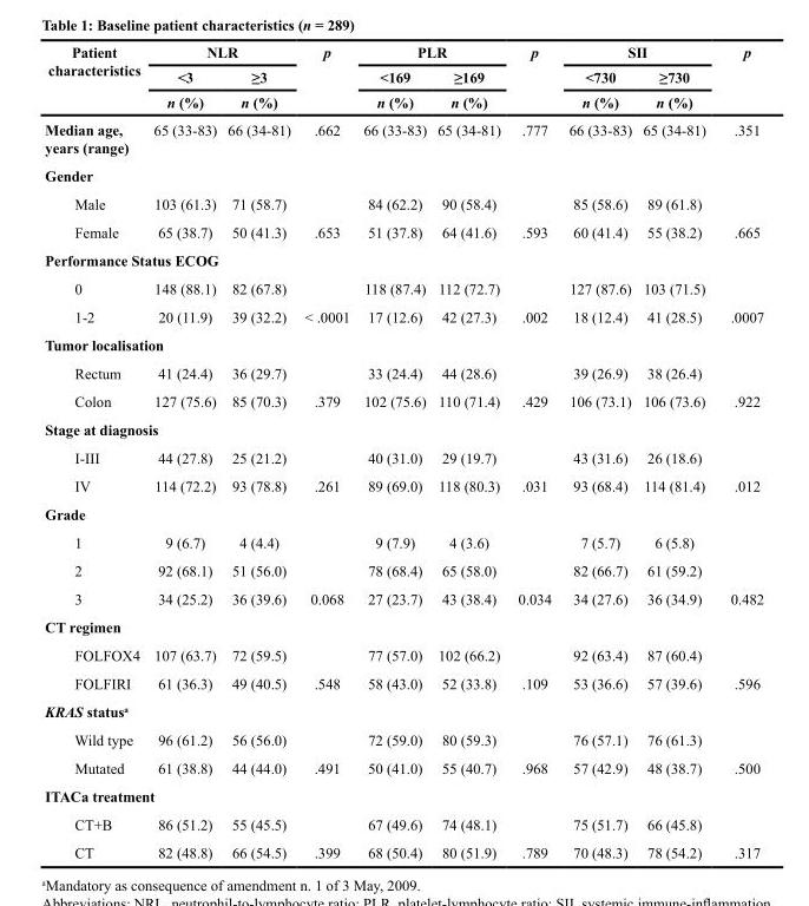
<table><thead><tr><td rowspan="3">Patient characteristics</td><td colspan="2">NLR</td><td rowspan="3">p</td><td colspan="2">PLR</td><td rowspan="3">p</td><td colspan="2">SII</td><td rowspan="3">p</td></tr><tr><td rowspan="2">&lt;3 n (%)</td><td rowspan="2">≥3 n (%)</td><td rowspan="2">&lt;169 n (%)</td><td rowspan="2">≥169 n (%)</td><td rowspan="2">&lt;730 n (%)</td><td rowspan="2">≥730 n (%)</td></tr><tr></tr></thead><tbody><tr><td>Median age, years (range)</td><td>65 (33-83)</td><td>66 (34-81)</td><td>.662</td><td>66 (33-83)</td><td>65 (34-81)</td><td>.777</td><td>66 (33-83)</td><td>65 (34-81)</td><td>.351</td></tr><tr><td colspan="10">Gender</td></tr><tr><td>Male</td><td>103 (61.3)</td><td>71 (58.7)</td><td></td><td>84 (62.2)</td><td>90 (58.4)</td><td></td><td>85 (58.6)</td><td>89 (61.8)</td><td></td></tr><tr><td>Female</td><td>65 (38.7)</td><td>50 (41.3)</td><td>.653</td><td>51 (37.8)</td><td>64 (41.6)</td><td>.593</td><td>60 (41.4)</td><td>55 (38.2)</td><td>.665</td></tr><tr><td colspan="10">Performance Status ECOG</td></tr><tr><td>0</td><td>148 (88.1)</td><td>82 (67.8)</td><td></td><td>118 (87.4)</td><td>112 (72.7)</td><td></td><td>127 (87.6)</td><td>103 (71.5)</td><td></td></tr><tr><td>1-2</td><td>20 (11.9)</td><td>39 (32.2)</td><td>&lt; .0001</td><td>17 (12.6)</td><td>42 (27.3)</td><td>.002</td><td>18 (12.4)</td><td>41 (28.5)</td><td>.0007</td></tr><tr><td colspan="10">Tumor localisation</td></tr><tr><td>Rectum</td><td>41 (24.4)</td><td>36 (29.7)</td><td></td><td>33 (24.4)</td><td>44 (28.6)</td><td></td><td>39 (26.9)</td><td>38 (26.4)</td><td></td></tr><tr><td>Colon</td><td>127 (75.6)</td><td>85 (70.3)</td><td>.379</td><td>102 (75.6)</td><td>110 (71.4)</td><td>.429</td><td>106 (73.1)</td><td>106 (73.6)</td><td>.922</td></tr><tr><td colspan="10">Stage at diagnosis</td></tr><tr><td>I-III</td><td>44 (27.8)</td><td>25 (21.2)</td><td></td><td>40 (31.0)</td><td>29 (19.7)</td><td></td><td>43 (31.6)</td><td>26 (18.6)</td><td></td></tr><tr><td>IV</td><td>114 (72.2)</td><td>93 (78.8)</td><td>.261</td><td>89 (69.0)</td><td>118 (80.3)</td><td>.031</td><td>93 (68.4)</td><td>114 (81.4)</td><td>.012</td></tr><tr><td colspan="10">Grade</td></tr><tr><td>1</td><td>9 (6.7)</td><td>4 (4.4)</td><td></td><td>9 (7.9)</td><td>4 (3.6)</td><td></td><td>7 (5.7)</td><td>6 (5.8)</td><td></td></tr><tr><td>2</td><td>92 (68.1)</td><td>51 (56.0)</td><td></td><td>78 (68.4)</td><td>65 (58.0)</td><td></td><td>82 (66.7)</td><td>61 (59.2)</td><td></td></tr><tr><td>3</td><td>34 (25.2)</td><td>36 (39.6)</td><td>0.068</td><td>27 (23.7)</td><td>43 (38.4)</td><td>0.034</td><td>34 (27.6)</td><td>36 (34.9)</td><td>0.482</td></tr><tr><td colspan="10">CT regimen</td></tr><tr><td>FOLFOX4</td><td>107 (63.7)</td><td>72 (59.5)</td><td></td><td>77 (57.0)</td><td>102 (66.2)</td><td></td><td>92 (63.4)</td><td>87 (60.4)</td><td></td></tr><tr><td>FOLFIRI</td><td>61 (36.3)</td><td>49 (40.5)</td><td>.548</td><td>58 (43.0)</td><td>52 (33.8)</td><td>.109</td><td>53 (36.6)</td><td>57 (39.6)</td><td>.596</td></tr><tr><td colspan="10">KRAS status<sup>a</sup></td></tr><tr><td>Wild type</td><td>96 (61.2)</td><td>56 (56.0)</td><td></td><td>72 (59.0)</td><td>80 (59.3)</td><td></td><td>76 (57.1)</td><td>76 (61.3)</td><td></td></tr><tr><td>Mutated</td><td>61 (38.8)</td><td>44 (44.0)</td><td>.491</td><td>50 (41.0)</td><td>55 (40.7)</td><td>.968</td><td>57 (42.9)</td><td>48 (38.7)</td><td>.500</td></tr><tr><td colspan="10">ITACa treatment</td></tr><tr><td>CT+B</td><td>86 (51.2)</td><td>55 (45.5)</td><td></td><td>67 (49.6)</td><td>74 (48.1)</td><td></td><td>75 (51.7)</td><td>66 (45.8)</td><td></td></tr><tr><td>CT</td><td>82 (48.8)</td><td>66 (54.5)</td><td>.399</td><td>68 (50.4)</td><td>80 (51.9)</td><td>.789</td><td>70 (48.3)</td><td>78 (54.2)</td><td>.317</td></tr></tbody></table>